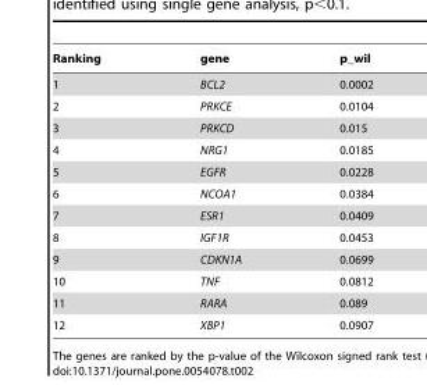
<table><thead><tr><td>Ranking</td><td>gene</td><td>p_wil</td></tr></thead><tbody><tr><td>1</td><td>BCL2</td><td>0.0002</td></tr><tr><td>2</td><td>PRKCE</td><td>0.0104</td></tr><tr><td>3</td><td>PRKCD</td><td>0.015</td></tr><tr><td>4</td><td>NRG1</td><td>0.0185</td></tr><tr><td>5</td><td>EGFR</td><td>0.0228</td></tr><tr><td>6</td><td>NCOA1</td><td>0.0384</td></tr><tr><td>7</td><td>ESR1</td><td>0.0409</td></tr><tr><td>8</td><td>IGF1R</td><td>0.0453</td></tr><tr><td>9</td><td>CDKN1A</td><td>0.0699</td></tr><tr><td>10</td><td>TNF</td><td>0.0812</td></tr><tr><td>11</td><td>RARA</td><td>0.089</td></tr><tr><td>12</td><td>XBP1</td><td>0.0907</td></tr></tbody></table>